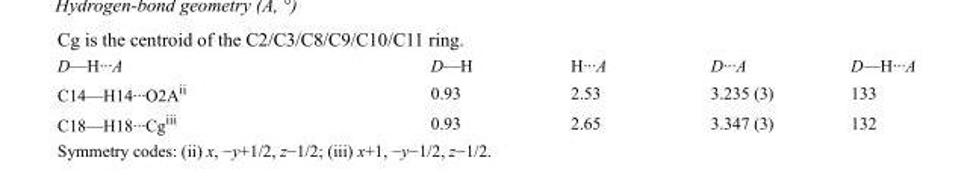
<table><tbody><tr><td>D—H···A</td><td>D—H</td><td>H···A</td><td>D···A</td><td>D—H···A</td></tr><tr><td>C14—H14···O2A<sup>ii</sup></td><td>0.93</td><td>2.53</td><td>3.235 (3)</td><td>133</td></tr><tr><td>C18—H18···Cg<sup>iii</sup></td><td>0.93</td><td>2.65</td><td>3.347 (3)</td><td>132</td></tr></tbody></table>